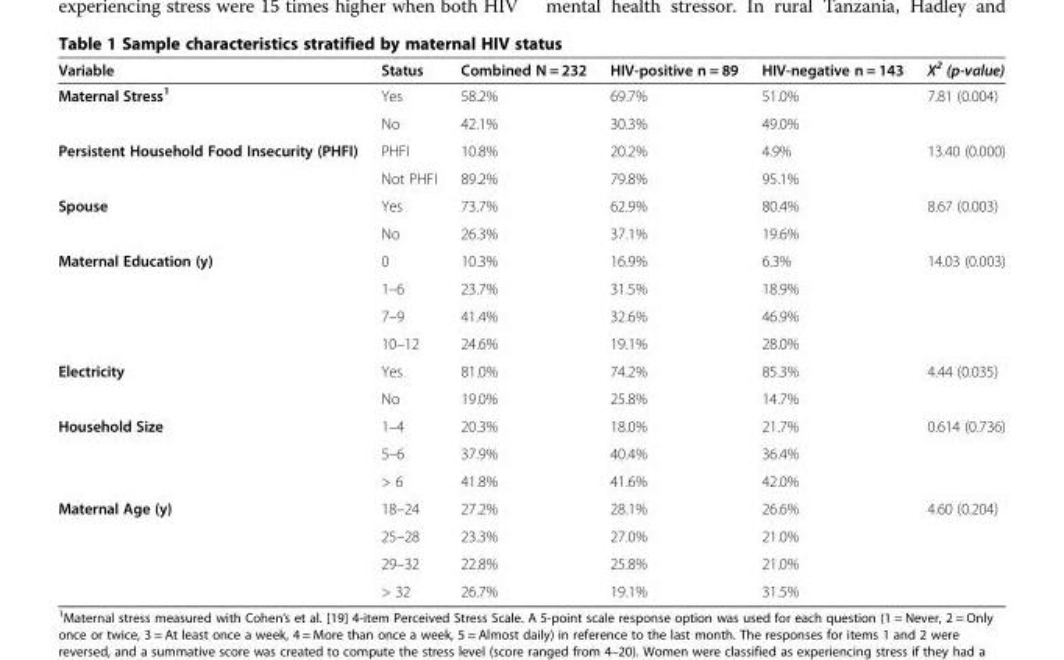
<table><thead><tr><td>Variable</td><td>Status</td><td>Combined N = 232</td><td>HIV-positive n = 89</td><td>HIV-negative n = 143</td><td>X<sup>2</sup> (p-value)</td></tr></thead><tbody><tr><td rowspan="2">Maternal Stress<sup>1</sup></td><td>Yes</td><td>58.2%</td><td>69.7%</td><td>51.0%</td><td rowspan="2">7.81 (0.004)</td></tr><tr><td>No</td><td>42.1%</td><td>30.3%</td><td>49.0%</td></tr><tr><td rowspan="2">Persistent Household Food Insecurity (PHFI)</td><td>PHFI</td><td>10.8%</td><td>20.2%</td><td>4.9%</td><td rowspan="2">13.40 (0.000)</td></tr><tr><td>Not PHFI</td><td>89.2%</td><td>79.8%</td><td>95.1%</td></tr><tr><td rowspan="2">Spouse</td><td>Yes</td><td>73.7%</td><td>62.9%</td><td>80.4%</td><td rowspan="2">8.67 (0.003)</td></tr><tr><td>No</td><td>26.3%</td><td>37.1%</td><td>19.6%</td></tr><tr><td rowspan="4">Maternal Education (y)</td><td>0</td><td>10.3%</td><td>16.9%</td><td>6.3%</td><td rowspan="4">14.03 (0.003)</td></tr><tr><td>1–6</td><td>23.7%</td><td>31.5%</td><td>18.9%</td></tr><tr><td>7–9</td><td>41.4%</td><td>32.6%</td><td>46.9%</td></tr><tr><td>10–12</td><td>24.6%</td><td>19.1%</td><td>28.0%</td></tr><tr><td rowspan="2">Electricity</td><td>Yes</td><td>81.0%</td><td>74.2%</td><td>85.3%</td><td rowspan="2">4.44 (0.035)</td></tr><tr><td>No</td><td>19.0%</td><td>25.8%</td><td>14.7%</td></tr><tr><td rowspan="3">Household Size</td><td>1–4</td><td>20.3%</td><td>18.0%</td><td>21.7%</td><td rowspan="3">0.614 (0.736)</td></tr><tr><td>5–6</td><td>37.9%</td><td>40.4%</td><td>36.4%</td></tr><tr><td>&gt; 6</td><td>41.8%</td><td>41.6%</td><td>42.0%</td></tr><tr><td rowspan="4">Maternal Age (y)</td><td>18–24</td><td>27.2%</td><td>28.1%</td><td>26.6%</td><td>4.60 (0.204)</td></tr><tr><td>25–28</td><td>23.3%</td><td>27.0%</td><td>21.0%</td><td></td></tr><tr><td>29–32</td><td>22.8%</td><td>25.8%</td><td>21.0%</td><td></td></tr><tr><td>&gt; 32</td><td>26.7%</td><td>19.1%</td><td>31.5%</td><td></td></tr></tbody></table>